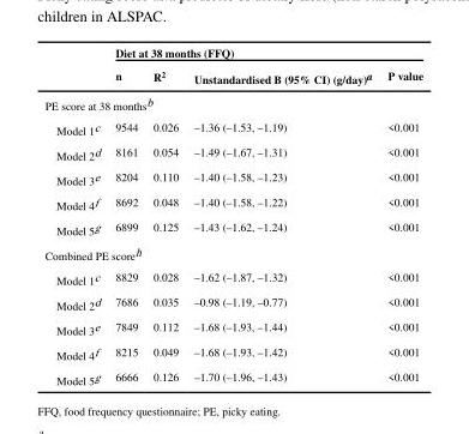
<table><thead><tr><td rowspan="2"></td><td colspan="4">Diet at 38 months (FFQ)</td></tr><tr><td>n</td><td>R<sup>2</sup></td><td>Unstandardised B (95% CI) (g/day)<sup>a</sup></td><td>P value</td></tr></thead><tbody><tr><td colspan="5">PE score at 38 months<sup>b</sup></td></tr><tr><td>Model 1<sup>c</sup></td><td>9544</td><td>0.026</td><td>–1.36 (–1.53, –1.19)</td><td>&lt;0.001</td></tr><tr><td>Model 2<sup>d</sup></td><td>8161</td><td>0.054</td><td>–1.49 (–1.67, –1.31)</td><td>&lt;0.001</td></tr><tr><td>Model 3<sup>e</sup></td><td>8204</td><td>0.110</td><td>–1.40 (–1.58, –1.23)</td><td>&lt;0.001</td></tr><tr><td>Model 4<sup>f</sup></td><td>8692</td><td>0.048</td><td>–1.40 (–1.58, –1.22)</td><td>&lt;0.001</td></tr><tr><td>Model 5<sup>g</sup></td><td>6899</td><td>0.125</td><td>–1.43 (–1.62, –1.24)</td><td>&lt;0.001</td></tr><tr><td colspan="5">Combined PE score<sup>h</sup></td></tr><tr><td>Model 1<sup>c</sup></td><td>8829</td><td>0.028</td><td>–1.62 (–1.87, –1.32)</td><td>&lt;0.001</td></tr><tr><td>Model 2<sup>d</sup></td><td>7686</td><td>0.035</td><td>–0.98 (–1.19, –0.77)</td><td>&lt;0.001</td></tr><tr><td>Model 3<sup>e</sup></td><td>7849</td><td>0.112</td><td>–1.68 (–1.93, –1.44)</td><td>&lt;0.001</td></tr><tr><td>Model 4<sup>f</sup></td><td>8215</td><td>0.049</td><td>–1.68 (–1.93, –1.42)</td><td>&lt;0.001</td></tr><tr><td>Model 5<sup>g</sup></td><td>6666</td><td>0.126</td><td>–1.70 (–1.96, –1.43)</td><td>&lt;0.001</td></tr></tbody></table>